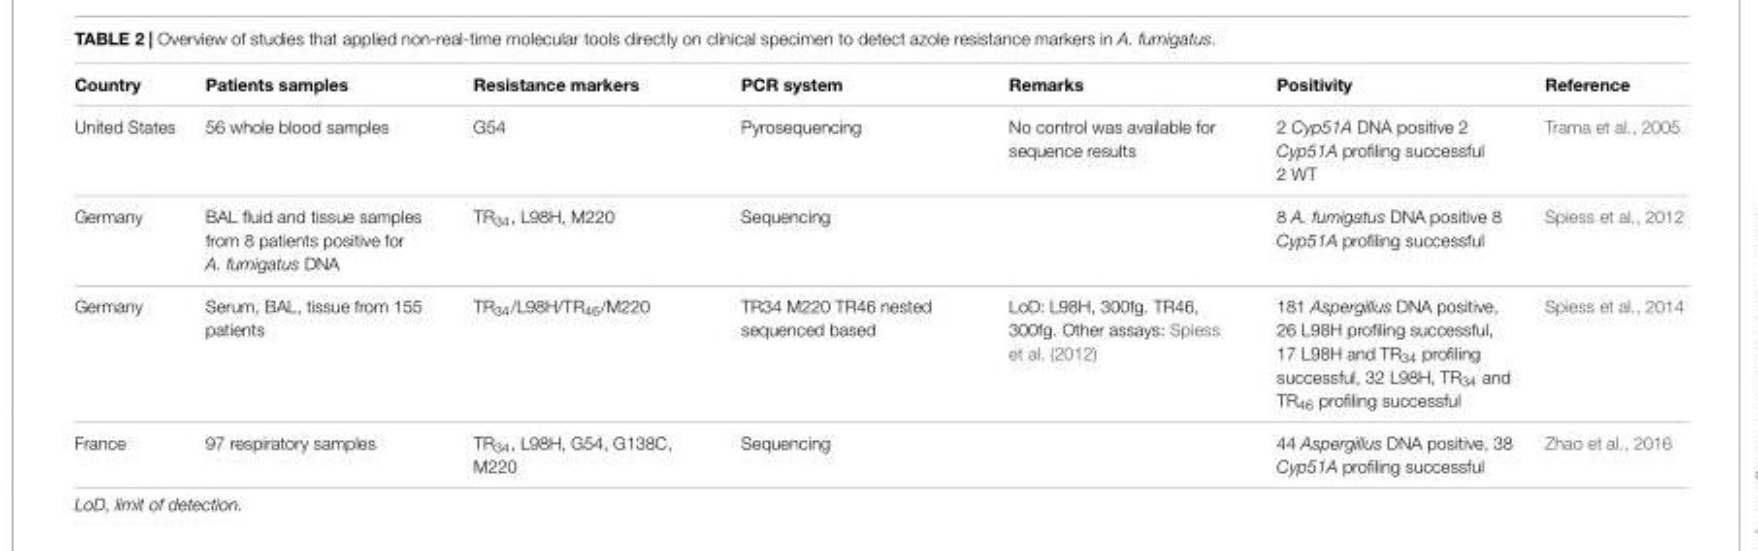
<table><thead><tr><td>Country</td><td>Patients samples</td><td>Resistance markers</td><td>PCR system</td><td>Remarks</td><td>Positivity</td><td>Reference</td></tr></thead><tbody><tr><td>United States</td><td>56 whole blood samples</td><td>G54</td><td>Pyrosequencing</td><td>No control was available for sequence results</td><td>2 Cyp51A DNA positive 2 Cyp51A profiling successful 2 WT</td><td>Trama et al., 2005</td></tr><tr><td>Germany</td><td>BAL fluid and tissue samples from 8 patients positive for A. fumigatus DNA</td><td>TR<sub>34</sub>, L98H, M220</td><td>Sequencing</td><td></td><td>8 A. fumigatus DNA positive 8 Cyp51A profiling successful</td><td>Spiess et al., 2012</td></tr><tr><td>Germany</td><td>Serum, BAL, tissue from 155 patients</td><td>TR<sub>34</sub>/L98H/TR<sub>46</sub>/M220</td><td>TR34 M220 TR46 nested sequenced based</td><td>LoD: L98H, 300fg. TR46, 300fg. Other assays: Spiess et al. (2012)</td><td>181 Aspergillus DNA positive, 26 L98H profiling successful, 17 L98H and TR<sub>34</sub> profiling successful, 32 L98H, TR<sub>34</sub> and TR<sub>46</sub> profiling successful</td><td>Spiess et al., 2014</td></tr><tr><td>France</td><td>97 respiratory samples</td><td>TR<sub>34</sub>, L98H, G54, G138C, M220</td><td>Sequencing</td><td></td><td>44 Aspergillus DNA positive, 38 Cyp51A profiling successful</td><td>Zhao et al., 2016</td></tr></tbody></table>